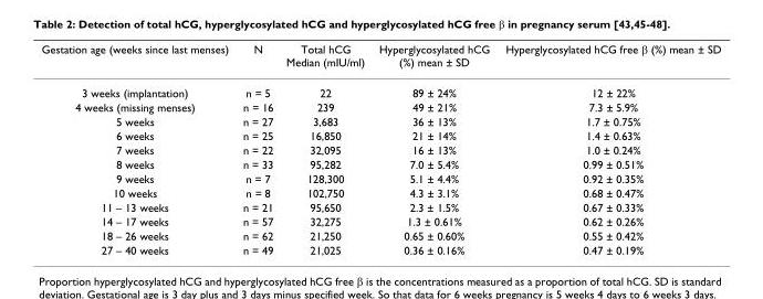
<table><thead><tr><td>Gestation age (weeks since last menses)</td><td>N</td><td>Total hCG Median (mIU/ml)</td><td>Hyperglycosylated hCG (%) mean ± SD</td><td>Hyperglycosylated hCG free β (%) mean ± SD</td></tr></thead><tbody><tr><td>3 weeks (implantation)</td><td>n = 5</td><td>22</td><td>89 ± 24%</td><td>12 ± 22%</td></tr><tr><td>4 weeks (missing menses)</td><td>n = 16</td><td>239</td><td>49 ± 21%</td><td>7.3 ± 5.9%</td></tr><tr><td>5 weeks</td><td>n = 27</td><td>3,683</td><td>36 ± 13%</td><td>1.7 ± 0.75%</td></tr><tr><td>6 weeks</td><td>n = 25</td><td>16,850</td><td>21 ± 14%</td><td>1.4 ± 0.63%</td></tr><tr><td>7 weeks</td><td>n = 22</td><td>32,095</td><td>16 ± 13%</td><td>1.0 ± 0.24%</td></tr><tr><td>8 weeks</td><td>n = 33</td><td>95,282</td><td>7.0 ± 5.4%</td><td>0.99 ± 0.51%</td></tr><tr><td>9 weeks</td><td>n = 7</td><td>128,300</td><td>5.1 ± 4.4%</td><td>0.92 ± 0.35%</td></tr><tr><td>10 weeks</td><td>n = 8</td><td>102,750</td><td>4.3 ± 3.1%</td><td>0.68 ± 0.47%</td></tr><tr><td>11 – 13 weeks</td><td>n = 21</td><td>95,650</td><td>2.3 ± 1.5%</td><td>0.67 ± 0.33%</td></tr><tr><td>14 – 17 weeks</td><td>n = 57</td><td>32,275</td><td>1.3 ± 0.61%</td><td>0.62 ± 0.26%</td></tr><tr><td>18 – 26 weeks</td><td>n = 62</td><td>21,250</td><td>0.65 ± 0.60%</td><td>0.55 ± 0.42%</td></tr><tr><td>27 – 40 weeks</td><td>n = 49</td><td>21,025</td><td>0.36 ± 0.16%</td><td>0.47 ± 0.19%</td></tr></tbody></table>